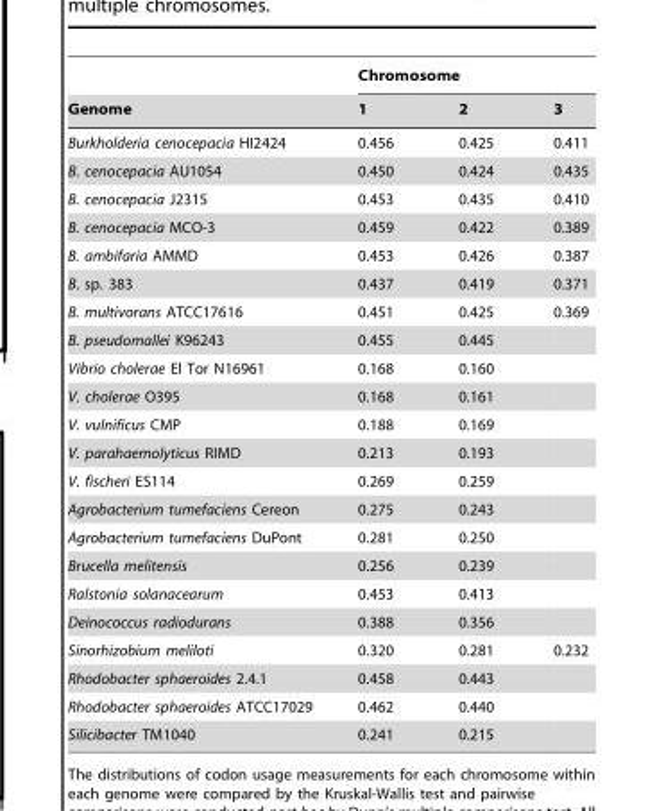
<table><thead><tr><td rowspan="2">Genome</td><td colspan="3">Chromosome</td></tr><tr><td>1</td><td>2</td><td>3</td></tr></thead><tbody><tr><td>Burkholderia cenocepacia HI2424</td><td>0.456</td><td>0.425</td><td>0.411</td></tr><tr><td>B. cenocepacia AU1054</td><td>0.450</td><td>0.424</td><td>0.435</td></tr><tr><td>B. cenocepacia J2315</td><td>0.453</td><td>0.435</td><td>0.410</td></tr><tr><td>B. cenocepacia MCO-3</td><td>0.459</td><td>0.422</td><td>0.389</td></tr><tr><td>B. ambifaria AMMD</td><td>0.453</td><td>0.426</td><td>0.387</td></tr><tr><td>B. sp. 383</td><td>0.437</td><td>0.419</td><td>0.371</td></tr><tr><td>B. multivorans ATCC17616</td><td>0.451</td><td>0.425</td><td>0.369</td></tr><tr><td>B. pseudomallei K96243</td><td>0.455</td><td>0.445</td><td></td></tr><tr><td>Vibrio cholerae El Tor N16961</td><td>0.168</td><td>0.160</td><td></td></tr><tr><td>V. cholerae O395</td><td>0.168</td><td>0.161</td><td></td></tr><tr><td>V. vulnificus CMP</td><td>0.188</td><td>0.169</td><td></td></tr><tr><td>V. parahaemolyticus RIMD</td><td>0.213</td><td>0.193</td><td></td></tr><tr><td>V. fischeri ES114</td><td>0.269</td><td>0.259</td><td></td></tr><tr><td>Agrobacterium tumefaciens Cereon</td><td>0.275</td><td>0.243</td><td></td></tr><tr><td>Agrobacterium tumefaciens DuPont</td><td>0.281</td><td>0.250</td><td></td></tr><tr><td>Brucella melitensis</td><td>0.256</td><td>0.239</td><td></td></tr><tr><td>Ralstonia solanacearum</td><td>0.453</td><td>0.413</td><td></td></tr><tr><td>Deinococcus radiodurans</td><td>0.388</td><td>0.356</td><td></td></tr><tr><td>Sinorhizobium meliloti</td><td>0.320</td><td>0.281</td><td>0.232</td></tr><tr><td>Rhodobacter sphaeroides 2.4.1</td><td>0.458</td><td>0.443</td><td></td></tr><tr><td>Rhodobacter sphaeroides ATCC17029</td><td>0.462</td><td>0.440</td><td></td></tr><tr><td>Silicibacter TM1040</td><td>0.241</td><td>0.215</td><td></td></tr></tbody></table>